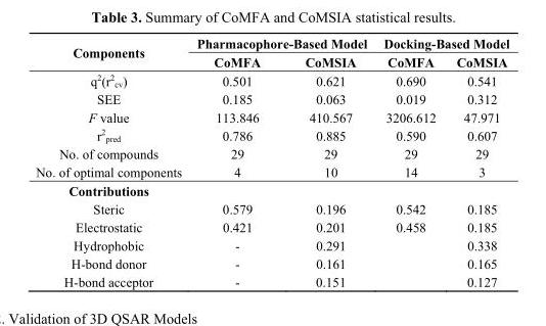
<table><thead><tr><td rowspan="2">Components</td><td colspan="2">Pharmacophore-Based Model</td><td colspan="2">Docking-Based Model</td></tr><tr><td>CoMFA</td><td>CoMSIA</td><td>CoMFA</td><td>CoMSIA</td></tr></thead><tbody><tr><td>q<sup>2</sup>(r<sup>2</sup><sub>cv</sub>)</td><td>0.501</td><td>0.621</td><td>0.690</td><td>0.541</td></tr><tr><td>SEE</td><td>0.185</td><td>0.063</td><td>0.019</td><td>0.312</td></tr><tr><td>F value</td><td>113.846</td><td>410.567</td><td>3206.612</td><td>47.971</td></tr><tr><td>r<sup>2</sup><sub>pred</sub></td><td>0.786</td><td>0.885</td><td>0.590</td><td>0.607</td></tr><tr><td>No. of compounds</td><td>29</td><td>29</td><td>29</td><td>29</td></tr><tr><td>No. of optimal components</td><td>4</td><td>10</td><td>14</td><td>3</td></tr><tr><td colspan="5">Contributions</td></tr><tr><td>Steric</td><td>0.579</td><td>0.196</td><td>0.542</td><td>0.185</td></tr><tr><td>Electrostatic</td><td>0.421</td><td>0.201</td><td>0.458</td><td>0.185</td></tr><tr><td>Hydrophobic</td><td>-</td><td>0.291</td><td></td><td>0.338</td></tr><tr><td>H-bond donor</td><td>-</td><td>0.161</td><td></td><td>0.165</td></tr><tr><td>H-bond acceptor</td><td>-</td><td>0.151</td><td></td><td>0.127</td></tr></tbody></table>